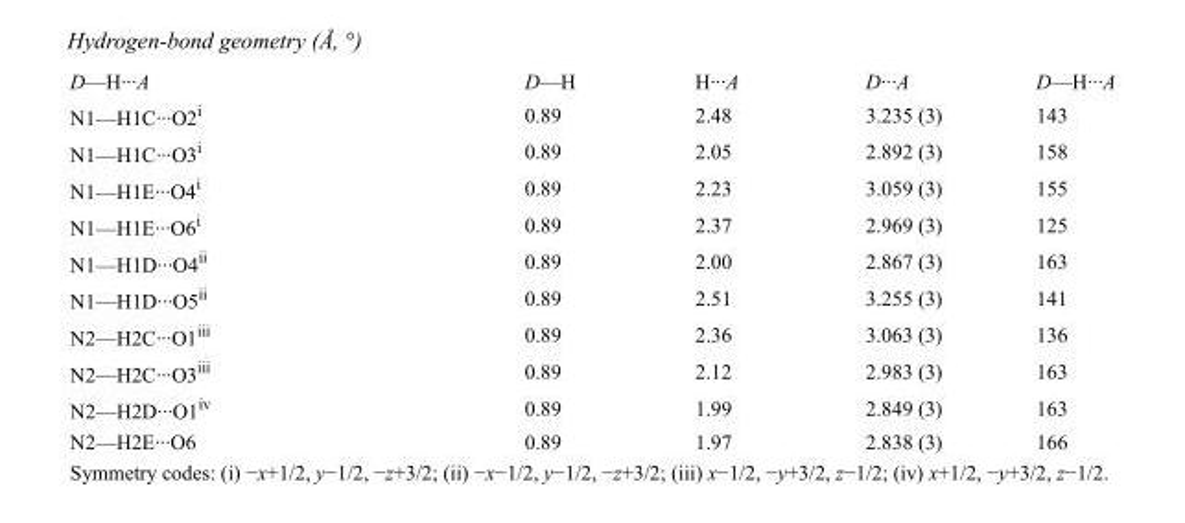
<table><tbody><tr><td>D—H···A</td><td>D—H</td><td>H···A</td><td>D···A</td><td>D—H···A</td></tr><tr><td>N1—H1C···O2<sup>i</sup></td><td>0.89</td><td>2.48</td><td>3.235 (3)</td><td>143</td></tr><tr><td>N1—H1C···O3<sup>i</sup></td><td>0.89</td><td>2.05</td><td>2.892 (3)</td><td>158</td></tr><tr><td>N1—H1E···O4<sup>i</sup></td><td>0.89</td><td>2.23</td><td>3.059 (3)</td><td>155</td></tr><tr><td>N1—H1E···O6<sup>i</sup></td><td>0.89</td><td>2.37</td><td>2.969 (3)</td><td>125</td></tr><tr><td>N1—H1D···O4<sup>ii</sup></td><td>0.89</td><td>2.00</td><td>2.867 (3)</td><td>163</td></tr><tr><td>N1—H1D···O5<sup>ii</sup></td><td>0.89</td><td>2.51</td><td>3.255 (3)</td><td>141</td></tr><tr><td>N2—H2C···O1<sup>iii</sup></td><td>0.89</td><td>2.36</td><td>3.063 (3)</td><td>136</td></tr><tr><td>N2—H2C···O3<sup>iii</sup></td><td>0.89</td><td>2.12</td><td>2.983 (3)</td><td>163</td></tr><tr><td>N2—H2D···O1<sup>iv</sup></td><td>0.89</td><td>1.99</td><td>2.849 (3)</td><td>163</td></tr><tr><td>N2—H2E···O6</td><td>0.89</td><td>1.97</td><td>2.838 (3)</td><td>166</td></tr></tbody></table>